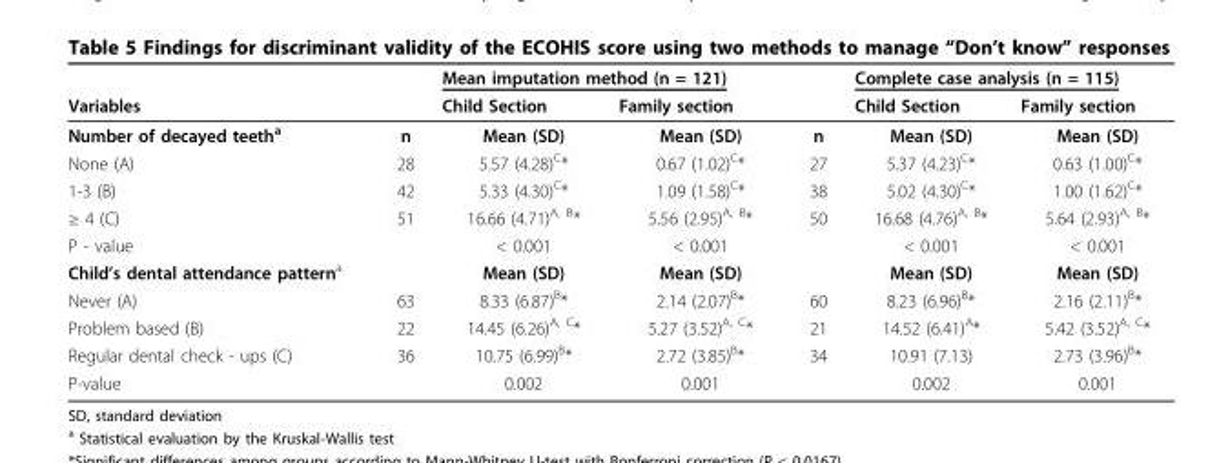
<table><thead><tr><td rowspan="2">Variables</td><td rowspan="2"></td><td colspan="2">Mean imputation method (n = 121)</td><td rowspan="2"></td><td colspan="2">Complete case analysis (n = 115)</td></tr><tr><td>Child Section</td><td>Family section</td><td>Child Section</td><td>Family section</td></tr></thead><tbody><tr><td>Number of decayed teeth<sup>a</sup></td><td>n</td><td>Mean (SD)</td><td>Mean (SD)</td><td>n</td><td>Mean (SD)</td><td>Mean (SD)</td></tr><tr><td>None (A)</td><td>28</td><td>5.57 (4.28)<sup>C</sup>*</td><td>0.67 (1.02)<sup>C</sup>*</td><td>27</td><td>5.37 (4.23)<sup>C</sup>*</td><td>0.63 (1.00)<sup>C</sup>*</td></tr><tr><td>1-3 (B)</td><td>42</td><td>5.33 (4.30)<sup>C</sup>*</td><td>1.09 (1.58)<sup>C</sup>*</td><td>38</td><td>5.02 (4.30)<sup>C</sup>*</td><td>1.00 (1.62)<sup>C</sup>*</td></tr><tr><td>≥ 4 (C)</td><td>51</td><td>16.66 (4.71)<sup>A, B</sup>*</td><td>5.56 (2.95)<sup>A, B</sup>*</td><td>50</td><td>16.68 (4.76)<sup>A, B</sup>*</td><td>5.64 (2.93)<sup>A, B</sup>*</td></tr><tr><td>P - value</td><td></td><td>&lt; 0.001</td><td>&lt; 0.001</td><td></td><td>&lt; 0.001</td><td>&lt; 0.001</td></tr><tr><td>Child’s dental attendance pattern<sup>a</sup></td><td></td><td>Mean (SD)</td><td>Mean (SD)</td><td></td><td>Mean (SD)</td><td>Mean (SD)</td></tr><tr><td>Never (A)</td><td>63</td><td>8.33 (6.87)<sup>B</sup>*</td><td>2.14 (2.07)<sup>B</sup>*</td><td>60</td><td>8.23 (6.96)<sup>B</sup>*</td><td>2.16 (2.11)<sup>B</sup>*</td></tr><tr><td>Problem based (B)</td><td>22</td><td>14.45 (6.26)<sup>A, C</sup>*</td><td>5.27 (3.52)<sup>A, C</sup>*</td><td>21</td><td>14.52 (6.41)<sup>A</sup>*</td><td>5.42 (3.52)<sup>A, C</sup>*</td></tr><tr><td>Regular dental check - ups (C)</td><td>36</td><td>10.75 (6.99)<sup>B</sup>*</td><td>2.72 (3.85)<sup>B</sup>*</td><td>34</td><td>10.91 (7.13)</td><td>2.73 (3.96)<sup>B</sup>*</td></tr><tr><td>P-value</td><td></td><td>0.002</td><td>0.001</td><td></td><td>0.002</td><td>0.001</td></tr></tbody></table>